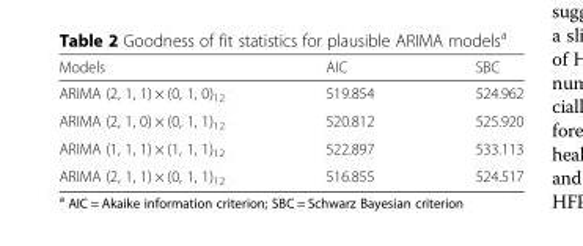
<table><thead><tr><td>Models</td><td>AIC</td><td>SBC</td></tr></thead><tbody><tr><td>ARIMA (2, 1, 1) × (0, 1, 0)<sub>12</sub></td><td>519.854</td><td>524.962</td></tr><tr><td>ARIMA (2, 1, 0) × (0, 1, 1)<sub>12</sub></td><td>520.812</td><td>525.920</td></tr><tr><td>ARIMA (1, 1, 1) × (1, 1, 1)<sub>12</sub></td><td>522.897</td><td>533.113</td></tr><tr><td>ARIMA (2, 1, 1) × (0, 1, 1)<sub>12</sub></td><td>516.855</td><td>524.517</td></tr></tbody></table>